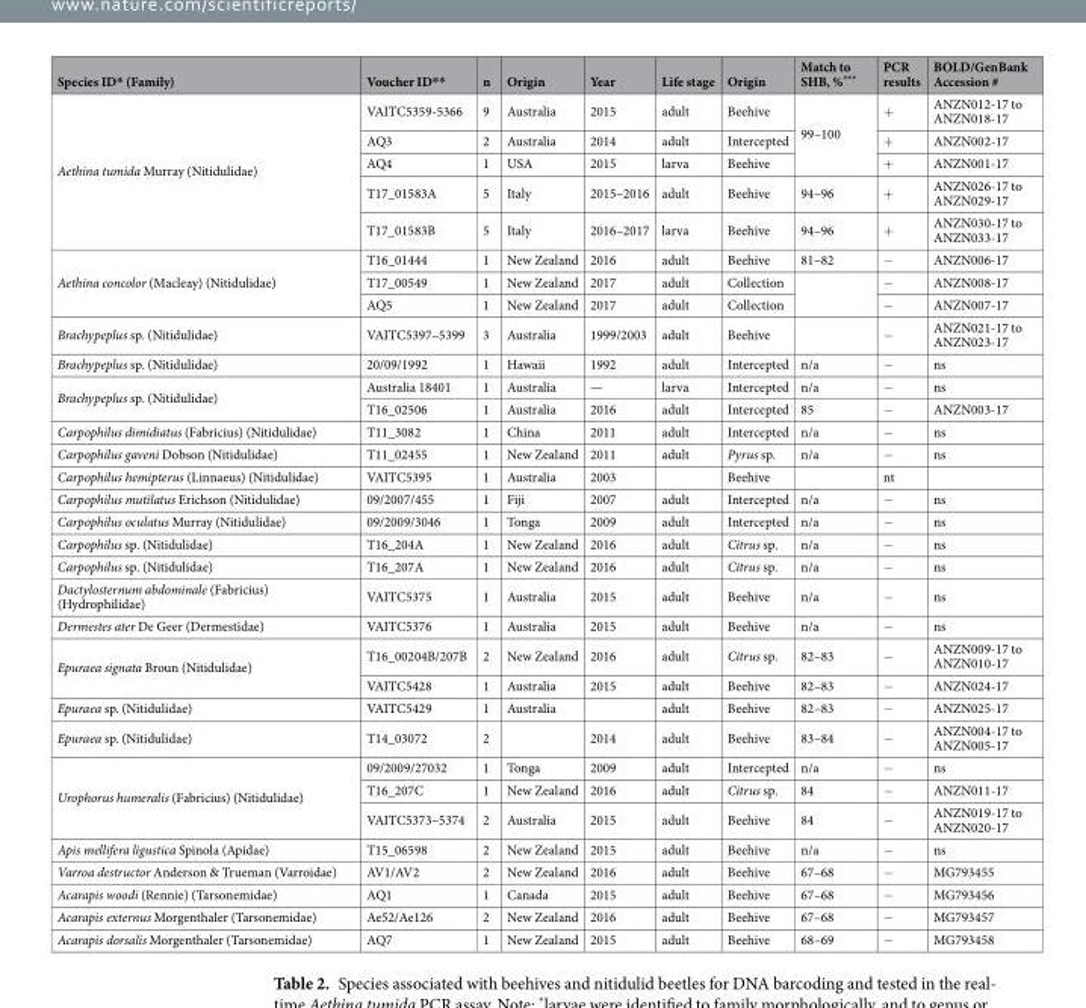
<table><thead><tr><td>Species ID* (Family)</td><td>Voucher ID**</td><td>n</td><td>Origin</td><td>Year</td><td>Life stage</td><td>Origin</td><td>Match to SHB, %***</td><td>PCR results</td><td>BOLD/GenBank Accession #</td></tr></thead><tbody><tr><td rowspan="5">Aethina tumida Murray (Nitidulidae)</td><td>VAITC5359-5366</td><td>9</td><td>Australia</td><td>2015</td><td>adult</td><td>Beehive</td><td rowspan="3">99–100</td><td>+</td><td>ANZN012-17 to ANZN018-17</td></tr><tr><td>AQ3</td><td>2</td><td>Australia</td><td>2014</td><td>adult</td><td>Intercepted</td><td>+</td><td>ANZN002-17</td></tr><tr><td>AQ4</td><td>1</td><td>USA</td><td>2015</td><td>larva</td><td>Beehive</td><td>+</td><td>ANZN001-17</td></tr><tr><td>T17_01583A</td><td>5</td><td>Italy</td><td>2015–2016</td><td>adult</td><td>Beehive</td><td>94–96</td><td>+</td><td>ANZN026-17 to ANZN029-17</td></tr><tr><td>T17_01583B</td><td>5</td><td>Italy</td><td>2016–2017</td><td>larva</td><td>Beehive</td><td>94–96</td><td>+</td><td>ANZN030-17 to ANZN033-17</td></tr><tr><td rowspan="3">Aethina concolor (Macleay) (Nitidulidae)</td><td>T16_01444</td><td>1</td><td>New Zealand</td><td>2016</td><td>adult</td><td>Beehive</td><td>81–82</td><td>−</td><td>ANZN006-17</td></tr><tr><td>T17_00549</td><td>1</td><td>New Zealand</td><td>2017</td><td>adult</td><td>Collection</td><td rowspan="2"></td><td>−</td><td>ANZN008-17</td></tr><tr><td>AQ5</td><td>1</td><td>New Zealand</td><td>2017</td><td>adult</td><td>Collection</td><td>−</td><td>ANZN007-17</td></tr><tr><td>Brachypeplus sp. (Nitidulidae)</td><td>VAITC5397–5399</td><td>3</td><td>Australia</td><td>1999/2003</td><td>adult</td><td>Beehive</td><td></td><td>−</td><td>ANZN021-17 to ANZN023-17</td></tr><tr><td>Brachypeplus sp. (Nitidulidae)</td><td>20/09/1992</td><td>1</td><td>Hawaii</td><td>1992</td><td>adult</td><td>Intercepted</td><td>n/a</td><td>−</td><td>ns</td></tr><tr><td rowspan="2">Brachypeplus sp. (Nitidulidae)</td><td>Australia 18401</td><td>1</td><td>Australia</td><td>—</td><td>larva</td><td>Intercepted</td><td>n/a</td><td>−</td><td>ns</td></tr><tr><td>T16_02506</td><td>1</td><td>Australia</td><td>2016</td><td>adult</td><td>Intercepted</td><td>85</td><td>−</td><td>ANZN003-17</td></tr><tr><td>Carpophilus dimidiatus (Fabricius) (Nitidulidae)</td><td>T11_3082</td><td>1</td><td>China</td><td>2011</td><td>adult</td><td>Intercepted</td><td>n/a</td><td>−</td><td>ns</td></tr><tr><td>Carpophilus gaveni Dobson (Nitidulidae)</td><td>T11_02455</td><td>1</td><td>New Zealand</td><td>2011</td><td>adult</td><td>Pyrus sp.</td><td>n/a</td><td>−</td><td>ns</td></tr><tr><td>Carpophilus hemipterus (Linnaeus) (Nitidulidae)</td><td>VAITC5395</td><td>1</td><td>Australia</td><td>2003</td><td></td><td>Beehive</td><td></td><td>nt</td><td></td></tr><tr><td>Carpophilus mutilatus Erichson (Nitidulidae)</td><td>09/2007/455</td><td>1</td><td>Fiji</td><td>2007</td><td>adult</td><td>Intercepted</td><td>n/a</td><td>−</td><td>ns</td></tr><tr><td>Carpophilus oculatus Murray (Nitidulidae)</td><td>09/2009/3046</td><td>1</td><td>Tonga</td><td>2009</td><td>adult</td><td>Intercepted</td><td>n/a</td><td>−</td><td>ns</td></tr><tr><td>Carpophilus sp. (Nitidulidae)</td><td>T16_204A</td><td>1</td><td>New Zealand</td><td>2016</td><td>adult</td><td>Citrus sp.</td><td>n/a</td><td>−</td><td>ns</td></tr><tr><td>Carpophilus sp. (Nitidulidae)</td><td>T16_207A</td><td>1</td><td>New Zealand</td><td>2016</td><td>adult</td><td>Citrus sp.</td><td>n/a</td><td>−</td><td>ns</td></tr><tr><td>Dactylosternum abdominale (Fabricius) (Hydrophilidae)</td><td>VAITC5375</td><td>1</td><td>Australia</td><td>2015</td><td>adult</td><td>Beehive</td><td>n/a</td><td>−</td><td>ns</td></tr><tr><td>Dermestes ater De Geer (Dermestidae)</td><td>VAITC5376</td><td>1</td><td>Australia</td><td>2015</td><td>adult</td><td>Beehive</td><td>n/a</td><td>−</td><td>ns</td></tr><tr><td rowspan="2">Epuraea signata Broun (Nitidulidae)</td><td>T16_00204B/207B</td><td>2</td><td>New Zealand</td><td>2016</td><td>adult</td><td>Citrus sp.</td><td>82–83</td><td>−</td><td>ANZN009-17 to ANZN010-17</td></tr><tr><td>VAITC5428</td><td>1</td><td>Australia</td><td>2015</td><td>adult</td><td>Beehive</td><td>82–83</td><td>−</td><td>ANZN024-17</td></tr><tr><td>Epuraea sp. (Nitidulidae)</td><td>VAITC5429</td><td>1</td><td>Australia</td><td></td><td>adult</td><td>Beehive</td><td>82–83</td><td>−</td><td>ANZN025-17</td></tr><tr><td>Epuraea sp. (Nitidulidae)</td><td>T14_03072</td><td>2</td><td></td><td>2014</td><td>adult</td><td>Beehive</td><td>83–84</td><td>−</td><td>ANZN004-17 to ANZN005-17</td></tr><tr><td rowspan="3">Urophorus humeralis (Fabricius) (Nitidulidae)</td><td>09/2009/27032</td><td>1</td><td>Tonga</td><td>2009</td><td>adult</td><td>Intercepted</td><td>n/a</td><td>−</td><td>ns</td></tr><tr><td>T16_207C</td><td>1</td><td>New Zealand</td><td>2016</td><td>adult</td><td>Citrus sp.</td><td>84</td><td>−</td><td>ANZN011-17</td></tr><tr><td>VAITC5373–5374</td><td>2</td><td>Australia</td><td>2015</td><td>adult</td><td>Beehive</td><td>84</td><td>−</td><td>ANZN019-17 to ANZN020-17</td></tr><tr><td>Apis mellifera ligustica Spinola (Apidae)</td><td>T15_06598</td><td>2</td><td>New Zealand</td><td>2015</td><td>adult</td><td>Beehive</td><td>n/a</td><td>−</td><td>ns</td></tr><tr><td>Varroa destructor Anderson &amp; Trueman (Varroidae)</td><td>AV1/AV2</td><td>2</td><td>New Zealand</td><td>2016</td><td>adult</td><td>Beehive</td><td>67–68</td><td>−</td><td>MG793455</td></tr><tr><td>Acarapis woodi (Rennie) (Tarsonemidae)</td><td>AQ1</td><td>1</td><td>Canada</td><td>2015</td><td>adult</td><td>Beehive</td><td>67–68</td><td>−</td><td>MG793456</td></tr><tr><td>Acarapis externus Morgenthaler (Tarsonemidae)</td><td>Ae52/Ae126</td><td>2</td><td>New Zealand</td><td>2016</td><td>adult</td><td>Beehive</td><td>67–68</td><td>−</td><td>MG793457</td></tr><tr><td>Acarapis dorsalis Morgenthaler (Tarsonemidae)</td><td>AQ7</td><td>1</td><td>New Zealand</td><td>2015</td><td>adult</td><td>Beehive</td><td>68–69</td><td>−</td><td>MG793458</td></tr></tbody></table>